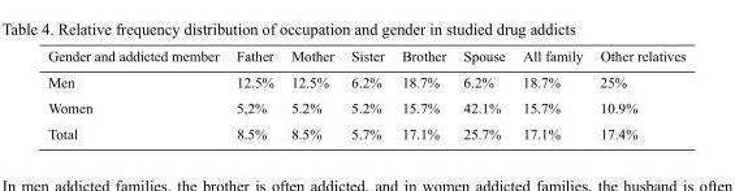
<table><thead><tr><td>Gender and addicted member</td><td>Father</td><td>Mother</td><td>Sister</td><td>Brother</td><td>Spouse</td><td>All family</td><td>Other relatives</td></tr></thead><tbody><tr><td>Men</td><td>12.5%</td><td>12.5%</td><td>6.2%</td><td>18.7%</td><td>6.2%</td><td>18.7%</td><td>25%</td></tr><tr><td>Women</td><td>5,2%</td><td>5.2%</td><td>5.2%</td><td>15.7%</td><td>42.1%</td><td>15.7%</td><td>10.9%</td></tr><tr><td>Total</td><td>8.5%</td><td>8.5%</td><td>5.7%</td><td>17.1%</td><td>25.7%</td><td>17.1%</td><td>17.4%</td></tr></tbody></table>